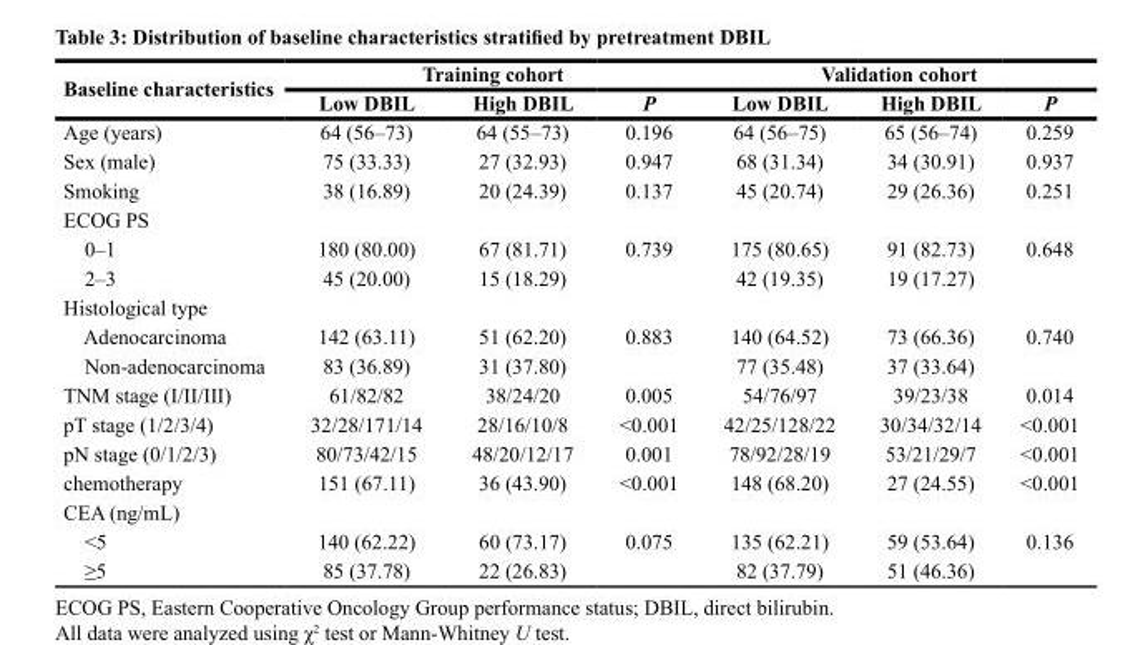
<table><thead><tr><td rowspan="2">Baseline characteristics</td><td colspan="3">Training cohort</td><td colspan="3">Validation cohort</td></tr><tr><td>Low DBIL</td><td>High DBIL</td><td>P</td><td>Low DBIL</td><td>High DBIL</td><td>P</td></tr></thead><tbody><tr><td>Age (years)</td><td>64 (56–73)</td><td>64 (55–73)</td><td>0.196</td><td>64 (56–75)</td><td>65 (56–74)</td><td>0.259</td></tr><tr><td>Sex (male)</td><td>75 (33.33)</td><td>27 (32.93)</td><td>0.947</td><td>68 (31.34)</td><td>34 (30.91)</td><td>0.937</td></tr><tr><td>Smoking</td><td>38 (16.89)</td><td>20 (24.39)</td><td>0.137</td><td>45 (20.74)</td><td>29 (26.36)</td><td>0.251</td></tr><tr><td colspan="7">ECOG PS</td></tr><tr><td>0–1</td><td>180 (80.00)</td><td>67 (81.71)</td><td>0.739</td><td>175 (80.65)</td><td>91 (82.73)</td><td>0.648</td></tr><tr><td>2–3</td><td>45 (20.00)</td><td>15 (18.29)</td><td></td><td>42 (19.35)</td><td>19 (17.27)</td><td></td></tr><tr><td colspan="7">Histological type</td></tr><tr><td>Adenocarcinoma</td><td>142 (63.11)</td><td>51 (62.20)</td><td>0.883</td><td>140 (64.52)</td><td>73 (66.36)</td><td>0.740</td></tr><tr><td>Non-adenocarcinoma</td><td>83 (36.89)</td><td>31 (37.80)</td><td></td><td>77 (35.48)</td><td>37 (33.64)</td><td></td></tr><tr><td>TNM stage (I/II/III)</td><td>61/82/82</td><td>38/24/20</td><td>0.005</td><td>54/76/97</td><td>39/23/38</td><td>0.014</td></tr><tr><td>pT stage (1/2/3/4)</td><td>32/28/171/14</td><td>28/16/10/8</td><td>&lt;0.001</td><td>42/25/128/22</td><td>30/34/32/14</td><td>&lt;0.001</td></tr><tr><td>pN stage (0/1/2/3)</td><td>80/73/42/15</td><td>48/20/12/17</td><td>0.001</td><td>78/92/28/19</td><td>53/21/29/7</td><td>&lt;0.001</td></tr><tr><td>chemotherapy</td><td>151 (67.11)</td><td>36 (43.90)</td><td>&lt;0.001</td><td>148 (68.20)</td><td>27 (24.55)</td><td>&lt;0.001</td></tr><tr><td colspan="7">CEA (ng/mL)</td></tr><tr><td>&lt;5</td><td>140 (62.22)</td><td>60 (73.17)</td><td>0.075</td><td>135 (62.21)</td><td>59 (53.64)</td><td>0.136</td></tr><tr><td>≥5</td><td>85 (37.78)</td><td>22 (26.83)</td><td></td><td>82 (37.79)</td><td>51 (46.36)</td><td></td></tr></tbody></table>